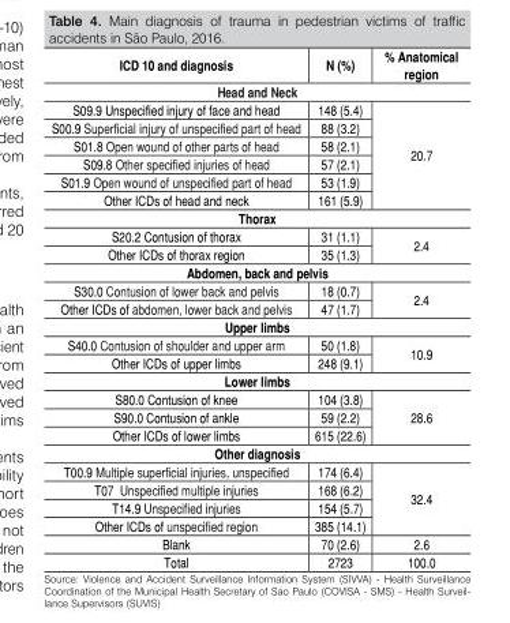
<table><thead><tr><td>ICD 10 and diagnosis</td><td>N (%)</td><td>% Anatomical region</td></tr><tr><td colspan="3">Head and Neck</td></tr></thead><tbody><tr><td>S09.9 Unspecified injury of face and head</td><td>148 (5.4)</td><td rowspan="6">20.7</td></tr><tr><td>S00.9 Superficial injury of unspecified part of head</td><td>88 (3.2)</td></tr><tr><td>S01.8 Open wound of other parts of head</td><td>58 (2.1)</td></tr><tr><td>S09.8 Other specified injuries of head</td><td>57 (2.1)</td></tr><tr><td>S01.9 Open wound of unspecified part of head</td><td>53 (1.9)</td></tr><tr><td>Other ICDs of head and neck</td><td>161 (5.9)</td></tr><tr><td colspan="3">Thorax</td></tr><tr><td>S20.2 Contusion of thorax</td><td>31 (1.1)</td><td rowspan="2">2.4</td></tr><tr><td>Other ICDs of thorax region</td><td>35 (1.3)</td></tr><tr><td colspan="3">Abdomen, back and pelvis</td></tr><tr><td>S30.0 Contusion of lower back and pelvis</td><td>18 (0.7)</td><td rowspan="2">2.4</td></tr><tr><td>Other ICDs of abdomen, lower back and pelvis</td><td>47 (1.7)</td></tr><tr><td colspan="3">Upper limbs</td></tr><tr><td>S40.0 Contusion of shoulder and upper arm</td><td>50 (1.8)</td><td rowspan="2">10.9</td></tr><tr><td>Other ICDs of upper limbs</td><td>248 (9.1)</td></tr><tr><td colspan="3">Lower limbs</td></tr><tr><td>S80.0 Contusion of knee</td><td>104 (3.8)</td><td rowspan="3">28.6</td></tr><tr><td>S90.0 Contusion of ankle</td><td>59 (2.2)</td></tr><tr><td>Other ICDs of lower limbs</td><td>615 (22.6)</td></tr><tr><td colspan="3">Other diagnosis</td></tr><tr><td>T00.9 Multiple superficial injuries, unspecified</td><td>174 (6.4)</td><td rowspan="4">32.4</td></tr><tr><td>T07 Unspecified multiple injuries</td><td>168 (6.2)</td></tr><tr><td>T14.9 Unspecified injuries</td><td>154 (5.7)</td></tr><tr><td>Other ICDs of unspecified region</td><td>385 (14.1)</td></tr><tr><td>Blank</td><td>70 (2.6)</td><td>2.6</td></tr><tr><td>Total</td><td>2723</td><td>100.0</td></tr></tbody></table>